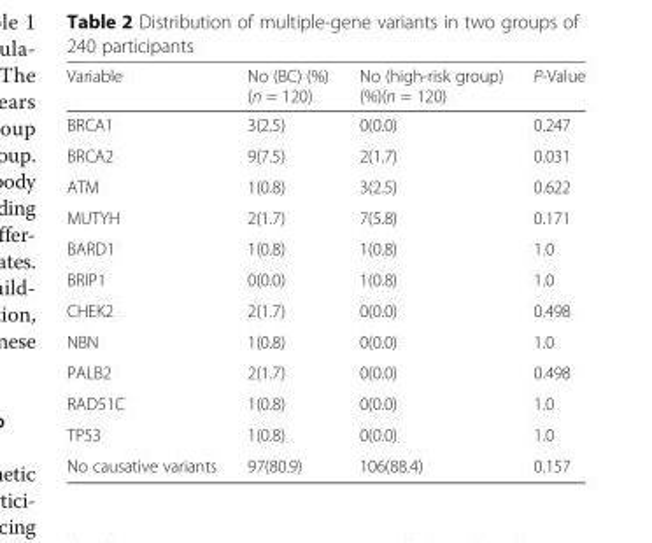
<table><thead><tr><td>Variable</td><td>No (BC) (%) (n = 120)</td><td>No (high-risk group) (%)(n = 120)</td><td>P-Value</td></tr></thead><tbody><tr><td>BRCA1</td><td>3(2.5)</td><td>0(0.0)</td><td>0.247</td></tr><tr><td>BRCA2</td><td>9(7.5)</td><td>2(1.7)</td><td>0.031</td></tr><tr><td>ATM</td><td>1(0.8)</td><td>3(2.5)</td><td>0.622</td></tr><tr><td>MUTYH</td><td>2(1.7)</td><td>7(5.8)</td><td>0.171</td></tr><tr><td>BARD1</td><td>1(0.8)</td><td>1(0.8)</td><td>1.0</td></tr><tr><td>BRIP1</td><td>0(0.0)</td><td>1(0.8)</td><td>1.0</td></tr><tr><td>CHEK2</td><td>2(1.7)</td><td>0(0.0)</td><td>0.498</td></tr><tr><td>NBN</td><td>1(0.8)</td><td>0(0.0)</td><td>1.0</td></tr><tr><td>PALB2</td><td>2(1.7)</td><td>0(0.0)</td><td>0.498</td></tr><tr><td>RAD51C</td><td>1(0.8)</td><td>0(0.0)</td><td>1.0</td></tr><tr><td>TP53</td><td>1(0.8)</td><td>0(0.0)</td><td>1.0</td></tr><tr><td>No causative variants</td><td>97(80.9)</td><td>106(88.4)</td><td>0.157</td></tr></tbody></table>